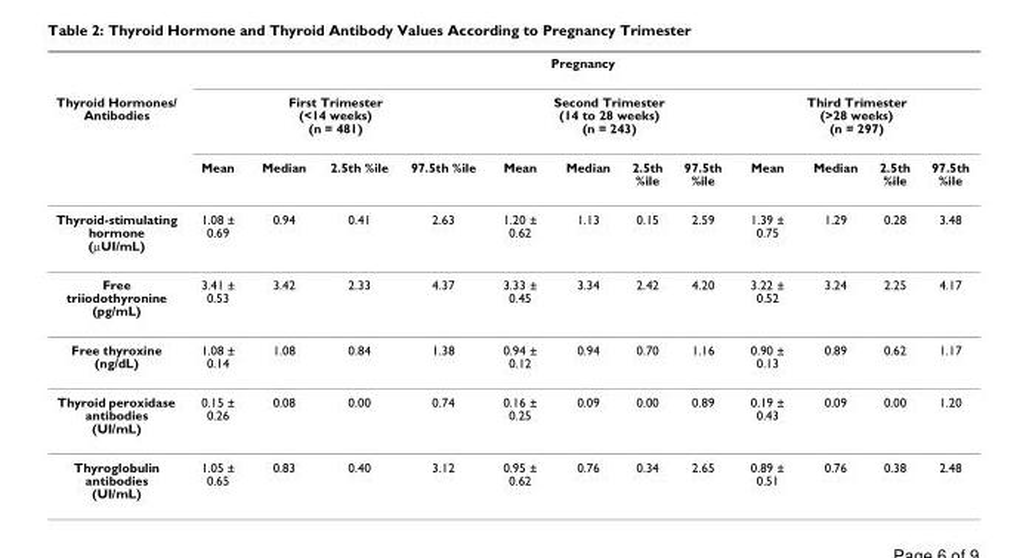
<table><thead><tr><td rowspan="3">Thyroid Hormones/ Antibodies</td><td colspan="12">Pregnancy</td></tr><tr><td colspan="4">First Trimester (&lt;14 weeks) (n = 481)</td><td colspan="4">Second Trimester (14 to 28 weeks) (n = 243)</td><td colspan="4">Third Trimester (&gt;28 weeks) (n = 297)</td></tr><tr><td>Mean</td><td>Median</td><td>2.5th %ile</td><td>97.5th %ile</td><td>Mean</td><td>Median</td><td>2.5th %ile</td><td>97.5th %ile</td><td>Mean</td><td>Median</td><td>2.5th %ile</td><td>97.5th %ile</td></tr></thead><tbody><tr><td>Thyroid-stimulating hormone (μUI/mL)</td><td>1.08 ± 0.69</td><td>0.94</td><td>0.41</td><td>2.63</td><td>1.20 ± 0.62</td><td>1.13</td><td>0.15</td><td>2.59</td><td>1.39 ± 0.75</td><td>1.29</td><td>0.28</td><td>3.48</td></tr><tr><td>Free triiodothyronine (pg/mL)</td><td>3.41 ± 0.53</td><td>3.42</td><td>2.33</td><td>4.37</td><td>3.33 ± 0.45</td><td>3.34</td><td>2.42</td><td>4.20</td><td>3.22 ± 0.52</td><td>3.24</td><td>2.25</td><td>4.17</td></tr><tr><td>Free thyroxine (ng/dL)</td><td>1.08 ± 0.14</td><td>1.08</td><td>0.84</td><td>1.38</td><td>0.94 ± 0.12</td><td>0.94</td><td>0.70</td><td>1.16</td><td>0.90 ± 0.13</td><td>0.89</td><td>0.62</td><td>1.17</td></tr><tr><td>Thyroid peroxidase antibodies (UI/mL)</td><td>0.15 ± 0.26</td><td>0.08</td><td>0.00</td><td>0.74</td><td>0.16 ± 0.25</td><td>0.09</td><td>0.00</td><td>0.89</td><td>0.19 ± 0.43</td><td>0.09</td><td>0.00</td><td>1.20</td></tr><tr><td>Thyroglobulin antibodies (UI/mL)</td><td>1.05 ± 0.65</td><td>0.83</td><td>0.40</td><td>3.12</td><td>0.95 ± 0.62</td><td>0.76</td><td>0.34</td><td>2.65</td><td>0.89 ± 0.51</td><td>0.76</td><td>0.38</td><td>2.48</td></tr></tbody></table>